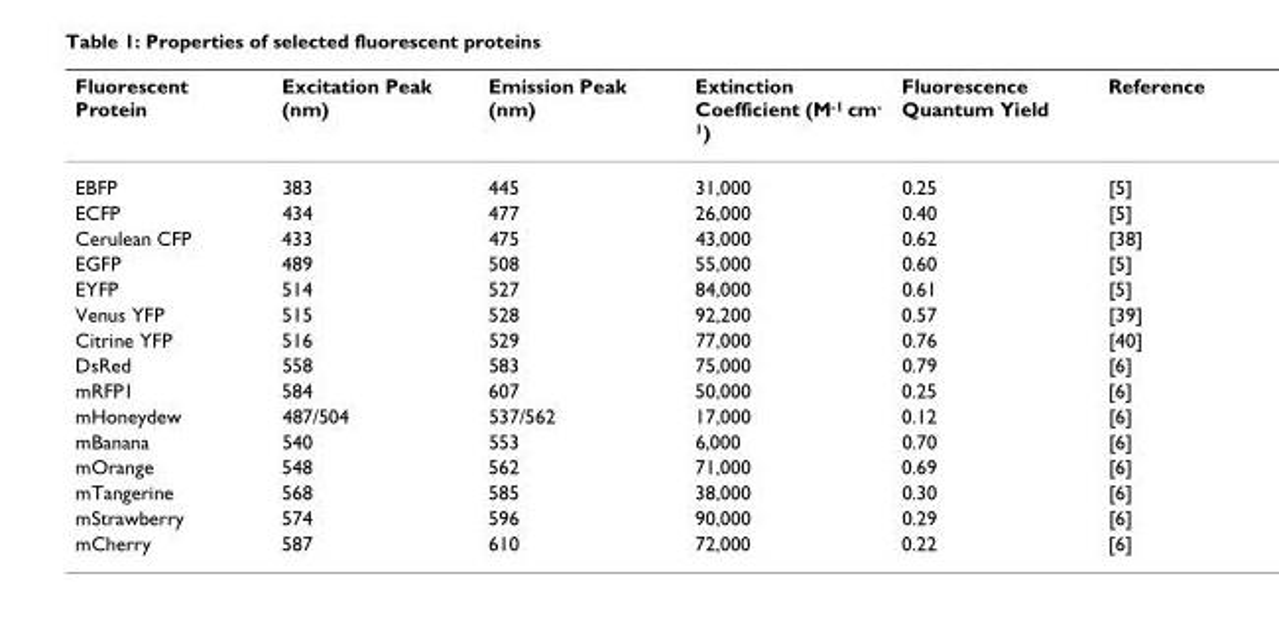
<table><thead><tr><td>Fluorescent Protein</td><td>Excitation Peak (nm)</td><td>Emission Peak (nm)</td><td>Extinction Coefficient (M-1 cm- 1)</td><td>Fluorescence Quantum Yield</td><td>Reference</td></tr></thead><tbody><tr><td>EBFP</td><td>383</td><td>445</td><td>31,000</td><td>0.25</td><td>[5]</td></tr><tr><td>ECFP</td><td>434</td><td>477</td><td>26,000</td><td>0.40</td><td>[5]</td></tr><tr><td>Cerulean CFP</td><td>433</td><td>475</td><td>43,000</td><td>0.62</td><td>[38]</td></tr><tr><td>EGFP</td><td>489</td><td>508</td><td>55,000</td><td>0.60</td><td>[5]</td></tr><tr><td>EYFP</td><td>514</td><td>527</td><td>84,000</td><td>0.61</td><td>[5]</td></tr><tr><td>Venus YFP</td><td>515</td><td>528</td><td>92,200</td><td>0.57</td><td>[39]</td></tr><tr><td>Citrine YFP</td><td>516</td><td>529</td><td>77,000</td><td>0.76</td><td>[40]</td></tr><tr><td>DsRed</td><td>558</td><td>583</td><td>75,000</td><td>0.79</td><td>[6]</td></tr><tr><td>mRFP1</td><td>584</td><td>607</td><td>50,000</td><td>0.25</td><td>[6]</td></tr><tr><td>mHoneydew</td><td>487/504</td><td>537/562</td><td>17,000</td><td>0.12</td><td>[6]</td></tr><tr><td>mBanana</td><td>540</td><td>553</td><td>6,000</td><td>0.70</td><td>[6]</td></tr><tr><td>mOrange</td><td>548</td><td>562</td><td>71,000</td><td>0.69</td><td>[6]</td></tr><tr><td>mTangerine</td><td>568</td><td>585</td><td>38,000</td><td>0.30</td><td>[6]</td></tr><tr><td>mStrawberry</td><td>574</td><td>596</td><td>90,000</td><td>0.29</td><td>[6]</td></tr><tr><td>mCherry</td><td>587</td><td>610</td><td>72,000</td><td>0.22</td><td>[6]</td></tr></tbody></table>